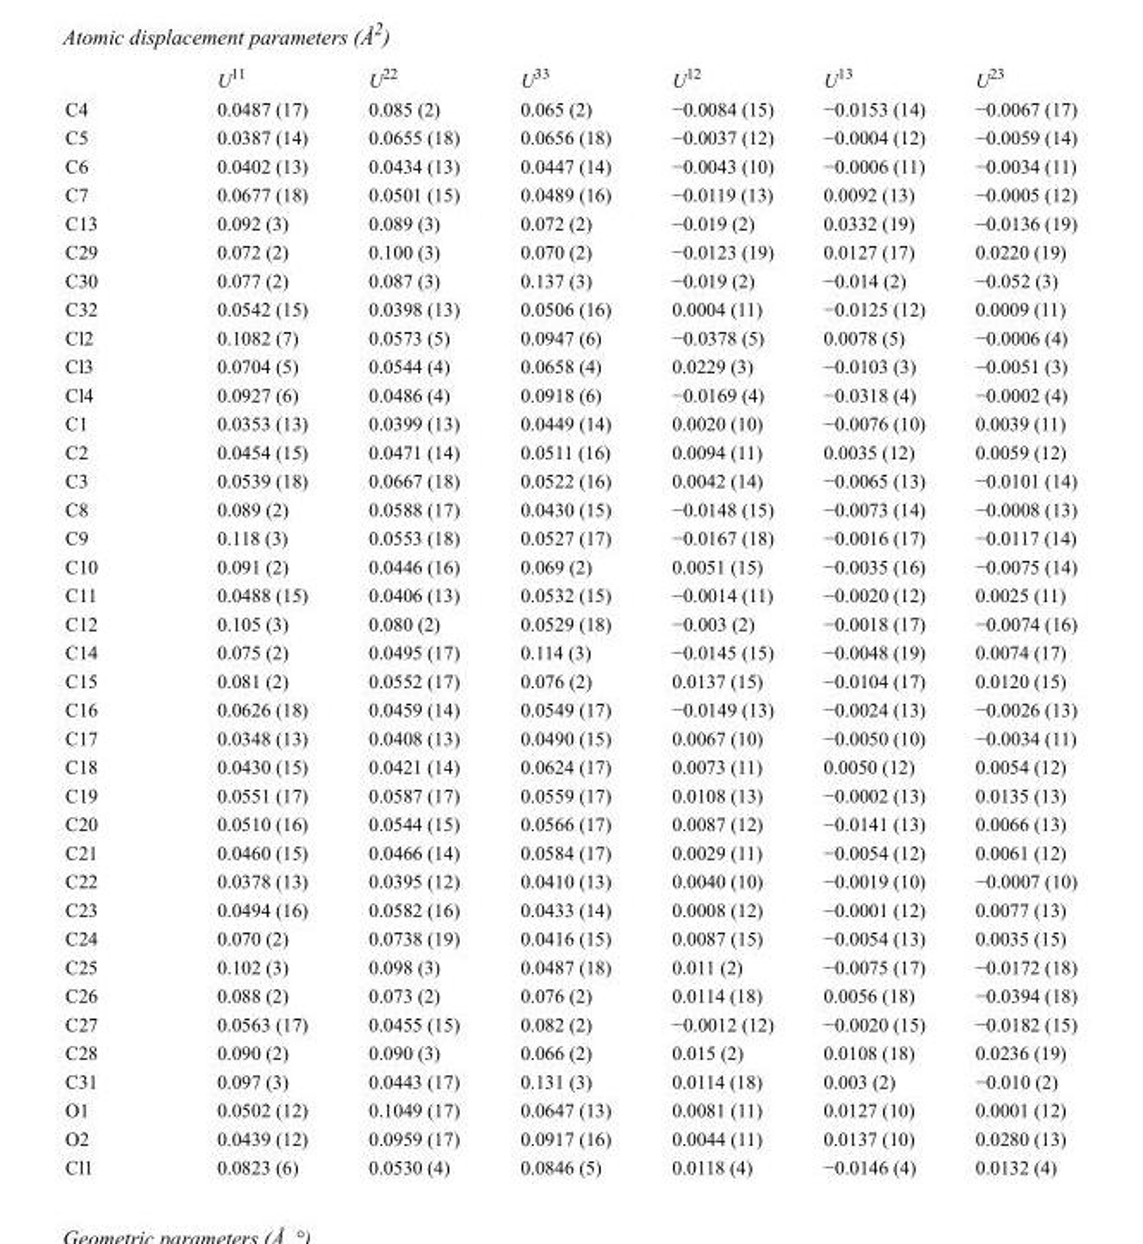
<table><thead><tr><td></td><td>U<sup>11</sup></td><td>U<sup>22</sup></td><td>U<sup>33</sup></td><td>U<sup>12</sup></td><td>U<sup>13</sup></td><td>U<sup>23</sup></td></tr></thead><tbody><tr><td>C4</td><td>0.0487 (17)</td><td>0.085 (2)</td><td>0.065 (2)</td><td>−0.0084 (15)</td><td>−0.0153 (14)</td><td>−0.0067 (17)</td></tr><tr><td>C5</td><td>0.0387 (14)</td><td>0.0655 (18)</td><td>0.0656 (18)</td><td>−0.0037 (12)</td><td>−0.0004 (12)</td><td>−0.0059 (14)</td></tr><tr><td>C6</td><td>0.0402 (13)</td><td>0.0434 (13)</td><td>0.0447 (14)</td><td>−0.0043 (10)</td><td>−0.0006 (11)</td><td>−0.0034 (11)</td></tr><tr><td>C7</td><td>0.0677 (18)</td><td>0.0501 (15)</td><td>0.0489 (16)</td><td>−0.0119 (13)</td><td>0.0092 (13)</td><td>−0.0005 (12)</td></tr><tr><td>C13</td><td>0.092 (3)</td><td>0.089 (3)</td><td>0.072 (2)</td><td>−0.019 (2)</td><td>0.0332 (19)</td><td>−0.0136 (19)</td></tr><tr><td>C29</td><td>0.072 (2)</td><td>0.100 (3)</td><td>0.070 (2)</td><td>−0.0123 (19)</td><td>0.0127 (17)</td><td>0.0220 (19)</td></tr><tr><td>C30</td><td>0.077 (2)</td><td>0.087 (3)</td><td>0.137 (3)</td><td>−0.019 (2)</td><td>−0.014 (2)</td><td>−0.052 (3)</td></tr><tr><td>C32</td><td>0.0542 (15)</td><td>0.0398 (13)</td><td>0.0506 (16)</td><td>0.0004 (11)</td><td>−0.0125 (12)</td><td>0.0009 (11)</td></tr><tr><td>Cl2</td><td>0.1082 (7)</td><td>0.0573 (5)</td><td>0.0947 (6)</td><td>−0.0378 (5)</td><td>0.0078 (5)</td><td>−0.0006 (4)</td></tr><tr><td>Cl3</td><td>0.0704 (5)</td><td>0.0544 (4)</td><td>0.0658 (4)</td><td>0.0229 (3)</td><td>−0.0103 (3)</td><td>−0.0051 (3)</td></tr><tr><td>Cl4</td><td>0.0927 (6)</td><td>0.0486 (4)</td><td>0.0918 (6)</td><td>−0.0169 (4)</td><td>−0.0318 (4)</td><td>−0.0002 (4)</td></tr><tr><td>C1</td><td>0.0353 (13)</td><td>0.0399 (13)</td><td>0.0449 (14)</td><td>0.0020 (10)</td><td>−0.0076 (10)</td><td>0.0039 (11)</td></tr><tr><td>C2</td><td>0.0454 (15)</td><td>0.0471 (14)</td><td>0.0511 (16)</td><td>0.0094 (11)</td><td>0.0035 (12)</td><td>0.0059 (12)</td></tr><tr><td>C3</td><td>0.0539 (18)</td><td>0.0667 (18)</td><td>0.0522 (16)</td><td>0.0042 (14)</td><td>−0.0065 (13)</td><td>−0.0101 (14)</td></tr><tr><td>C8</td><td>0.089 (2)</td><td>0.0588 (17)</td><td>0.0430 (15)</td><td>−0.0148 (15)</td><td>−0.0073 (14)</td><td>−0.0008 (13)</td></tr><tr><td>C9</td><td>0.118 (3)</td><td>0.0553 (18)</td><td>0.0527 (17)</td><td>−0.0167 (18)</td><td>−0.0016 (17)</td><td>−0.0117 (14)</td></tr><tr><td>C10</td><td>0.091 (2)</td><td>0.0446 (16)</td><td>0.069 (2)</td><td>0.0051 (15)</td><td>−0.0035 (16)</td><td>−0.0075 (14)</td></tr><tr><td>C11</td><td>0.0488 (15)</td><td>0.0406 (13)</td><td>0.0532 (15)</td><td>−0.0014 (11)</td><td>−0.0020 (12)</td><td>0.0025 (11)</td></tr><tr><td>C12</td><td>0.105 (3)</td><td>0.080 (2)</td><td>0.0529 (18)</td><td>−0.003 (2)</td><td>−0.0018 (17)</td><td>−0.0074 (16)</td></tr><tr><td>C14</td><td>0.075 (2)</td><td>0.0495 (17)</td><td>0.114 (3)</td><td>−0.0145 (15)</td><td>−0.0048 (19)</td><td>0.0074 (17)</td></tr><tr><td>C15</td><td>0.081 (2)</td><td>0.0552 (17)</td><td>0.076 (2)</td><td>0.0137 (15)</td><td>−0.0104 (17)</td><td>0.0120 (15)</td></tr><tr><td>C16</td><td>0.0626 (18)</td><td>0.0459 (14)</td><td>0.0549 (17)</td><td>−0.0149 (13)</td><td>−0.0024 (13)</td><td>−0.0026 (13)</td></tr><tr><td>C17</td><td>0.0348 (13)</td><td>0.0408 (13)</td><td>0.0490 (15)</td><td>0.0067 (10)</td><td>−0.0050 (10)</td><td>−0.0034 (11)</td></tr><tr><td>C18</td><td>0.0430 (15)</td><td>0.0421 (14)</td><td>0.0624 (17)</td><td>0.0073 (11)</td><td>0.0050 (12)</td><td>0.0054 (12)</td></tr><tr><td>C19</td><td>0.0551 (17)</td><td>0.0587 (17)</td><td>0.0559 (17)</td><td>0.0108 (13)</td><td>−0.0002 (13)</td><td>0.0135 (13)</td></tr><tr><td>C20</td><td>0.0510 (16)</td><td>0.0544 (15)</td><td>0.0566 (17)</td><td>0.0087 (12)</td><td>−0.0141 (13)</td><td>0.0066 (13)</td></tr><tr><td>C21</td><td>0.0460 (15)</td><td>0.0466 (14)</td><td>0.0584 (17)</td><td>0.0029 (11)</td><td>−0.0054 (12)</td><td>0.0061 (12)</td></tr><tr><td>C22</td><td>0.0378 (13)</td><td>0.0395 (12)</td><td>0.0410 (13)</td><td>0.0040 (10)</td><td>−0.0019 (10)</td><td>−0.0007 (10)</td></tr><tr><td>C23</td><td>0.0494 (16)</td><td>0.0582 (16)</td><td>0.0433 (14)</td><td>0.0008 (12)</td><td>−0.0001 (12)</td><td>0.0077 (13)</td></tr><tr><td>C24</td><td>0.070 (2)</td><td>0.0738 (19)</td><td>0.0416 (15)</td><td>0.0087 (15)</td><td>−0.0054 (13)</td><td>0.0035 (15)</td></tr><tr><td>C25</td><td>0.102 (3)</td><td>0.098 (3)</td><td>0.0487 (18)</td><td>0.011 (2)</td><td>−0.0075 (17)</td><td>−0.0172 (18)</td></tr><tr><td>C26</td><td>0.088 (2)</td><td>0.073 (2)</td><td>0.076 (2)</td><td>0.0114 (18)</td><td>0.0056 (18)</td><td>−0.0394 (18)</td></tr><tr><td>C27</td><td>0.0563 (17)</td><td>0.0455 (15)</td><td>0.082 (2)</td><td>−0.0012 (12)</td><td>−0.0020 (15)</td><td>−0.0182 (15)</td></tr><tr><td>C28</td><td>0.090 (2)</td><td>0.090 (3)</td><td>0.066 (2)</td><td>0.015 (2)</td><td>0.0108 (18)</td><td>0.0236 (19)</td></tr><tr><td>C31</td><td>0.097 (3)</td><td>0.0443 (17)</td><td>0.131 (3)</td><td>0.0114 (18)</td><td>0.003 (2)</td><td>−0.010 (2)</td></tr><tr><td>O1</td><td>0.0502 (12)</td><td>0.1049 (17)</td><td>0.0647 (13)</td><td>0.0081 (11)</td><td>0.0127 (10)</td><td>0.0001 (12)</td></tr><tr><td>O2</td><td>0.0439 (12)</td><td>0.0959 (17)</td><td>0.0917 (16)</td><td>0.0044 (11)</td><td>0.0137 (10)</td><td>0.0280 (13)</td></tr><tr><td>Cl1</td><td>0.0823 (6)</td><td>0.0530 (4)</td><td>0.0846 (5)</td><td>0.0118 (4)</td><td>−0.0146 (4)</td><td>0.0132 (4)</td></tr></tbody></table>